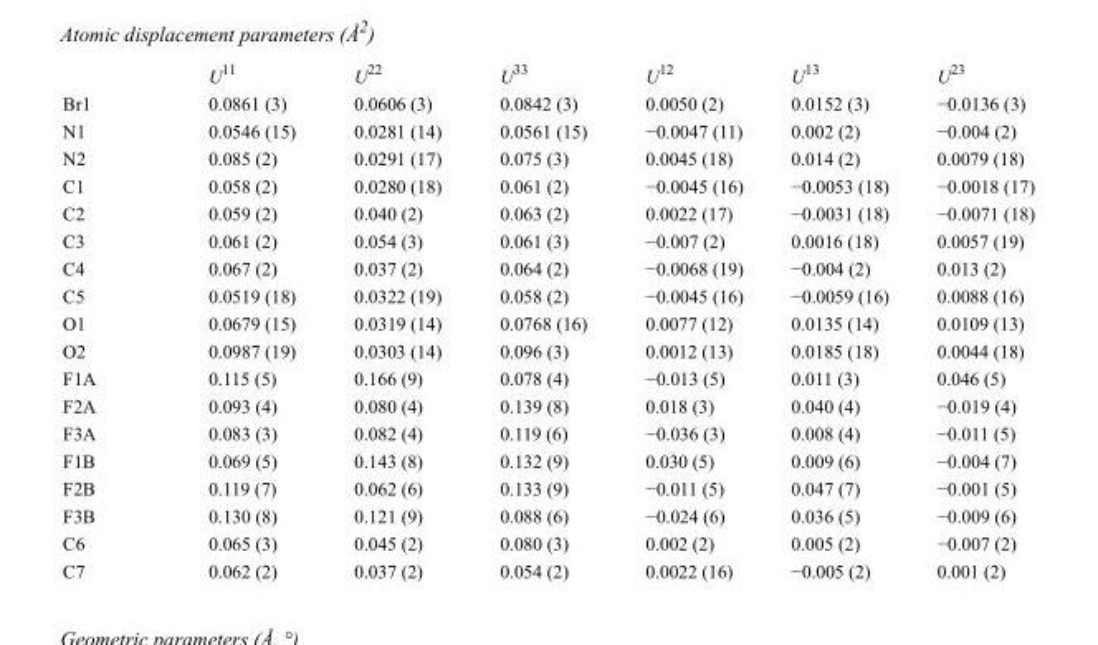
<table><thead><tr><td></td><td>U<sup>11</sup></td><td>U<sup>22</sup></td><td>U<sup>33</sup></td><td>U<sup>12</sup></td><td>U<sup>13</sup></td><td>U<sup>23</sup></td></tr></thead><tbody><tr><td>Br1</td><td>0.0861 (3)</td><td>0.0606 (3)</td><td>0.0842 (3)</td><td>0.0050 (2)</td><td>0.0152 (3)</td><td>−0.0136 (3)</td></tr><tr><td>N1</td><td>0.0546 (15)</td><td>0.0281 (14)</td><td>0.0561 (15)</td><td>−0.0047 (11)</td><td>0.002 (2)</td><td>−0.004 (2)</td></tr><tr><td>N2</td><td>0.085 (2)</td><td>0.0291 (17)</td><td>0.075 (3)</td><td>0.0045 (18)</td><td>0.014 (2)</td><td>0.0079 (18)</td></tr><tr><td>C1</td><td>0.058 (2)</td><td>0.0280 (18)</td><td>0.061 (2)</td><td>−0.0045 (16)</td><td>−0.0053 (18)</td><td>−0.0018 (17)</td></tr><tr><td>C2</td><td>0.059 (2)</td><td>0.040 (2)</td><td>0.063 (2)</td><td>0.0022 (17)</td><td>−0.0031 (18)</td><td>−0.0071 (18)</td></tr><tr><td>C3</td><td>0.061 (2)</td><td>0.054 (3)</td><td>0.061 (3)</td><td>−0.007 (2)</td><td>0.0016 (18)</td><td>0.0057 (19)</td></tr><tr><td>C4</td><td>0.067 (2)</td><td>0.037 (2)</td><td>0.064 (2)</td><td>−0.0068 (19)</td><td>−0.004 (2)</td><td>0.013 (2)</td></tr><tr><td>C5</td><td>0.0519 (18)</td><td>0.0322 (19)</td><td>0.058 (2)</td><td>−0.0045 (16)</td><td>−0.0059 (16)</td><td>0.0088 (16)</td></tr><tr><td>O1</td><td>0.0679 (15)</td><td>0.0319 (14)</td><td>0.0768 (16)</td><td>0.0077 (12)</td><td>0.0135 (14)</td><td>0.0109 (13)</td></tr><tr><td>O2</td><td>0.0987 (19)</td><td>0.0303 (14)</td><td>0.096 (3)</td><td>0.0012 (13)</td><td>0.0185 (18)</td><td>0.0044 (18)</td></tr><tr><td>F1A</td><td>0.115 (5)</td><td>0.166 (9)</td><td>0.078 (4)</td><td>−0.013 (5)</td><td>0.011 (3)</td><td>0.046 (5)</td></tr><tr><td>F2A</td><td>0.093 (4)</td><td>0.080 (4)</td><td>0.139 (8)</td><td>0.018 (3)</td><td>0.040 (4)</td><td>−0.019 (4)</td></tr><tr><td>F3A</td><td>0.083 (3)</td><td>0.082 (4)</td><td>0.119 (6)</td><td>−0.036 (3)</td><td>0.008 (4)</td><td>−0.011 (5)</td></tr><tr><td>F1B</td><td>0.069 (5)</td><td>0.143 (8)</td><td>0.132 (9)</td><td>0.030 (5)</td><td>0.009 (6)</td><td>−0.004 (7)</td></tr><tr><td>F2B</td><td>0.119 (7)</td><td>0.062 (6)</td><td>0.133 (9)</td><td>−0.011 (5)</td><td>0.047 (7)</td><td>−0.001 (5)</td></tr><tr><td>F3B</td><td>0.130 (8)</td><td>0.121 (9)</td><td>0.088 (6)</td><td>−0.024 (6)</td><td>0.036 (5)</td><td>−0.009 (6)</td></tr><tr><td>C6</td><td>0.065 (3)</td><td>0.045 (2)</td><td>0.080 (3)</td><td>0.002 (2)</td><td>0.005 (2)</td><td>−0.007 (2)</td></tr><tr><td>C7</td><td>0.062 (2)</td><td>0.037 (2)</td><td>0.054 (2)</td><td>0.0022 (16)</td><td>−0.005 (2)</td><td>0.001 (2)</td></tr></tbody></table>